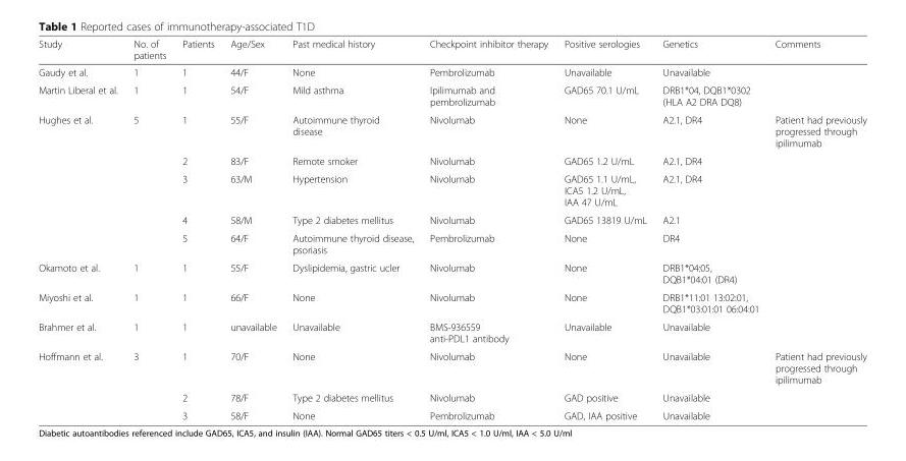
<table><thead><tr><td>Study</td><td>No. of patients</td><td>Patients</td><td>Age/Sex</td><td>Past medical history</td><td>Checkpoint inhibitor therapy</td><td>Positive serologies</td><td>Genetics</td><td>Comments</td></tr></thead><tbody><tr><td>Gaudy et al.</td><td>1</td><td>1</td><td>44/F</td><td>None</td><td>Pembrolizumab</td><td>Unavailable</td><td>Unavailable</td><td></td></tr><tr><td>Martin Liberal et al.</td><td>1</td><td>1</td><td>54/F</td><td>Mild asthma</td><td>Ipilimumab and pembrolizumab</td><td>GAD65 70.1 U/mL</td><td>DRB1*04, DQB1*0302 (HLA A2 DRA DQ8)</td><td></td></tr><tr><td rowspan="5">Hughes et al.</td><td rowspan="5">5</td><td>1</td><td>55/F</td><td>Autoimmune thyroid disease</td><td>Nivolumab</td><td>None</td><td>A2.1, DR4</td><td>Patient had previously progressed through ipilimumab</td></tr><tr><td>2</td><td>83/F</td><td>Remote smoker</td><td>Nivolumab</td><td>GAD65 1.2 U/mL</td><td>A2.1, DR4</td><td></td></tr><tr><td>3</td><td>63/M</td><td>Hypertension</td><td>Nivolumab</td><td>GAD65 1.1 U/mL, ICA5 1.2 U/mL, IAA 47 U/mL</td><td>A2.1, DR4</td><td></td></tr><tr><td>4</td><td>58/M</td><td>Type 2 diabetes mellitus</td><td>Nivolumab</td><td>GAD65 13819 U/mL</td><td>A2.1</td><td></td></tr><tr><td>5</td><td>64/F</td><td>Autoimmune thyroid disease, psoriasis</td><td>Pembrolizumab</td><td>None</td><td>DR4</td><td></td></tr><tr><td>Okamoto et al.</td><td>1</td><td>1</td><td>55/F</td><td>Dyslipidemia, gastric ucler</td><td>Nivolumab</td><td>None</td><td>DRB1*04:05, DQB1*04:01 (DR4)</td><td></td></tr><tr><td>Miyoshi et al.</td><td>1</td><td>1</td><td>66/F</td><td>None</td><td>Nivolumab</td><td>None</td><td>DRB1*11:01 13:02:01, DQB1*03:01:01 06:04:01</td><td></td></tr><tr><td>Brahmer et al.</td><td>1</td><td>1</td><td>unavailable</td><td>Unavailable</td><td>BMS-936559 anti-PDL1 antibody</td><td>Unavailable</td><td>Unavailable</td><td></td></tr><tr><td rowspan="3">Hoffmann et al.</td><td rowspan="3">3</td><td>1</td><td>70/F</td><td>None</td><td>Nivolumab</td><td>None</td><td>Unavailable</td><td>Patient had previously progressed through ipilimumab</td></tr><tr><td>2</td><td>78/F</td><td>Type 2 diabetes mellitus</td><td>Nivolumab</td><td>GAD positive</td><td>Unavailable</td><td></td></tr><tr><td>3</td><td>58/F</td><td>None</td><td>Pembrolizumab</td><td>GAD, IAA positive</td><td>Unavailable</td><td></td></tr></tbody></table>